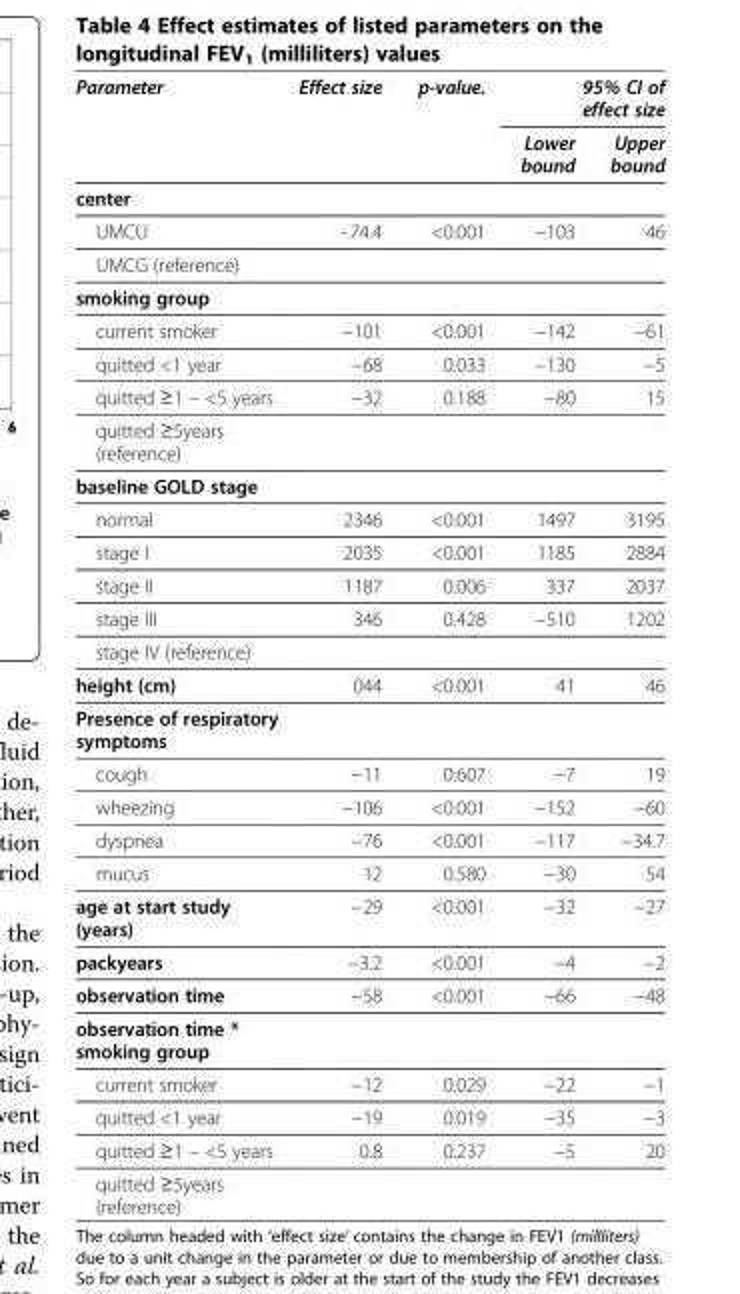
<table><thead><tr><td rowspan="2">Parameter</td><td rowspan="2">Effect size</td><td rowspan="2">p-value.</td><td colspan="2">95% CI of effect size</td></tr><tr><td>Lower bound</td><td>Upper bound</td></tr></thead><tbody><tr><td colspan="5">center</td></tr><tr><td>UMCU</td><td>-.74.4</td><td>&lt;0.001</td><td>−103</td><td>46</td></tr><tr><td colspan="5">UMCG (reference)</td></tr><tr><td colspan="5">smoking group</td></tr><tr><td>current smoker</td><td>−101</td><td>&lt;0.001</td><td>−142</td><td>−61</td></tr><tr><td>quitted &lt;1 year</td><td>−68</td><td>0.033</td><td>−130</td><td>−5</td></tr><tr><td>quitted ≥1 – &lt;5 years</td><td>−32</td><td>0.188</td><td>−80</td><td>15</td></tr><tr><td colspan="5">quitted ≥5years (reference)</td></tr><tr><td colspan="5">baseline GOLD stage</td></tr><tr><td>normal</td><td>2346</td><td>&lt;0.001</td><td>1497</td><td>3195</td></tr><tr><td>stage I</td><td>2035</td><td>&lt;0.001</td><td>1185</td><td>2884</td></tr><tr><td>stage II</td><td>1187</td><td>0.006</td><td>337</td><td>2037</td></tr><tr><td>stage III</td><td>346</td><td>0.428</td><td>−510</td><td>1202</td></tr><tr><td colspan="5">stage IV (reference)</td></tr><tr><td>height (cm)</td><td>044</td><td>&lt;0.001</td><td>41</td><td>46</td></tr><tr><td colspan="5">Presence of respiratory symptoms</td></tr><tr><td>cough</td><td>−11</td><td>0.607</td><td>−7</td><td>19</td></tr><tr><td>wheezing</td><td>−106</td><td>&lt;0.001</td><td>−152</td><td>−60</td></tr><tr><td>dyspnea</td><td>−76</td><td>&lt;0.001</td><td>−117</td><td>−34.7</td></tr><tr><td>mucus</td><td>12</td><td>0.580</td><td>−30</td><td>54</td></tr><tr><td>age at start study (years)</td><td>−29</td><td>&lt;0.001</td><td>−32</td><td>−27</td></tr><tr><td>packyears</td><td>−3.2</td><td>&lt;0.001</td><td>−4</td><td>−2</td></tr><tr><td>observation time</td><td>−58</td><td>&lt;0.001</td><td>−66</td><td>−48</td></tr><tr><td colspan="5">observation time * smoking group</td></tr><tr><td>current smoker</td><td>−12</td><td>0.029</td><td>−22</td><td>−1</td></tr><tr><td>quitted &lt;1 year</td><td>−19</td><td>0.019</td><td>−35</td><td>−3</td></tr><tr><td>quitted ≥1 – &lt;5 years</td><td>0.8</td><td>0.237</td><td>−5</td><td>20</td></tr><tr><td>quitted ≥5years (reference)</td><td></td><td></td><td></td><td></td></tr></tbody></table>